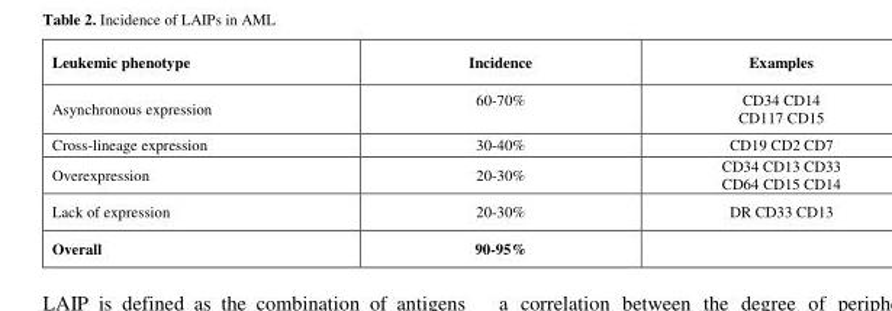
<table><thead><tr><td>Leukemic phenotype</td><td>Incidence</td><td>Examples</td></tr></thead><tbody><tr><td>Asynchronous expression</td><td>60-70%</td><td>CD34 CD14 CD117 CD15</td></tr><tr><td>Cross-lineage expression</td><td>30-40%</td><td>CD19 CD2 CD7</td></tr><tr><td>Overexpression</td><td>20-30%</td><td>CD34 CD13 CD33 CD64 CD15 CD14</td></tr><tr><td>Lack of expression</td><td>20-30%</td><td>DR CD33 CD13</td></tr><tr><td>Overall</td><td>90-95%</td><td></td></tr></tbody></table>